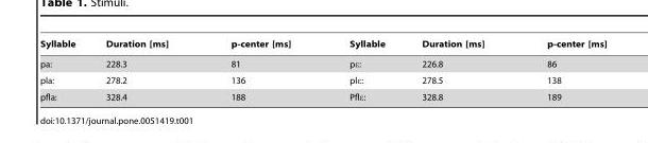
<table><thead><tr><td>Syllable</td><td>Duration [ms]</td><td>p-center [ms]</td><td>Syllable</td><td>Duration [ms]</td><td>p-center [ms]</td></tr></thead><tbody><tr><td>pa:</td><td>228.3</td><td>81</td><td>pε:</td><td>226.8</td><td>86</td></tr><tr><td>pla:</td><td>278.2</td><td>136</td><td>plε:</td><td>278.5</td><td>138</td></tr><tr><td>pfla:</td><td>328.4</td><td>188</td><td>Pflε:</td><td>328.8</td><td>189</td></tr></tbody></table>